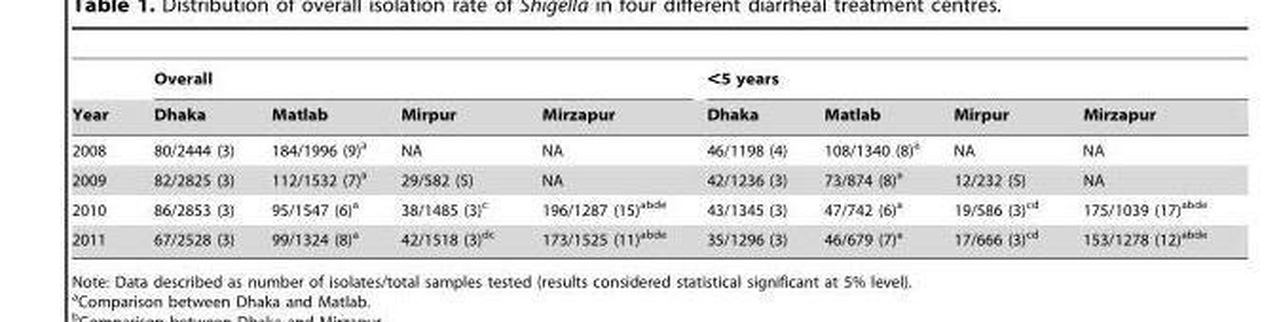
<table><thead><tr><td rowspan="2">Year</td><td colspan="4">Overall</td><td colspan="4">&lt;5 years</td></tr><tr><td>Dhaka</td><td>Matlab</td><td>Mirpur</td><td>Mirzapur</td><td>Dhaka</td><td>Matlab</td><td>Mirpur</td><td>Mirzapur</td></tr></thead><tbody><tr><td>2008</td><td>80/2444 (3)</td><td>184/1996 (9)<sup>a</sup></td><td>NA</td><td>NA</td><td>46/1198 (4)</td><td>108/1340 (8)<sup>a</sup></td><td>NA</td><td>NA</td></tr><tr><td>2009</td><td>82/2825 (3)</td><td>112/1532 (7)<sup>a</sup></td><td>29/582 (5)</td><td>NA</td><td>42/1236 (3)</td><td>73/874 (8)<sup>a</sup></td><td>12/232 (5)</td><td>NA</td></tr><tr><td>2010</td><td>86/2853 (3)</td><td>95/1547 (6)<sup>a</sup></td><td>38/1485 (3)<sup>c</sup></td><td>196/1287 (15)<sup>abde</sup></td><td>43/1345 (3)</td><td>47/742 (6)<sup>a</sup></td><td>19/586 (3)<sup>cd</sup></td><td>175/1039 (17)<sup>abde</sup></td></tr><tr><td>2011</td><td>67/2528 (3)</td><td>99/1324 (8)<sup>a</sup></td><td>42/1518 (3)<sup>dc</sup></td><td>173/1525 (11)<sup>abde</sup></td><td>35/1296 (3)</td><td>46/679 (7)<sup>a</sup></td><td>17/666 (3)<sup>cd</sup></td><td>153/1278 (12)<sup>abde</sup></td></tr></tbody></table>